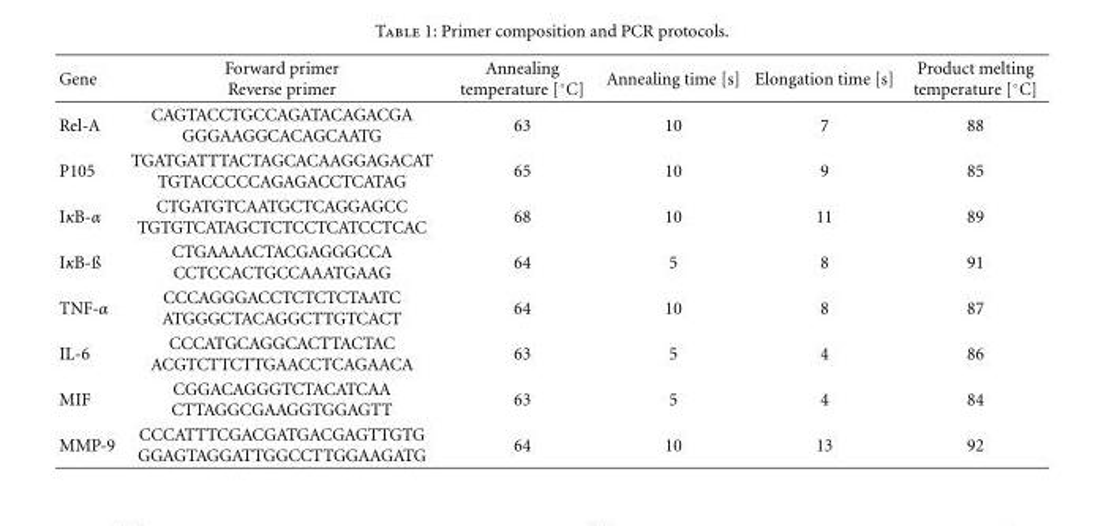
<table><thead><tr><td>Gene</td><td>Forward primer Reverse primer</td><td>Annealing temperature [◦C]</td><td>Annealing time [s]</td><td>Elongation time [s]</td><td>Product melting temperature [◦C]</td></tr></thead><tbody><tr><td>Rel-A</td><td>CAGTACCTGCCAGATACAGACGA GGGAAGGCACAGCAATG</td><td>63</td><td>10</td><td>7</td><td>88</td></tr><tr><td>P105</td><td>TGATGATTTACTAGCACAAGGAGACAT TGTACCCCCAGAGACCTCATAG</td><td>65</td><td>10</td><td>9</td><td>85</td></tr><tr><td>IκB-α</td><td>CTGATGTCAATGCTCAGGAGCC TGTGTCATAGCTCTCCTCATCCTCAC</td><td>68</td><td>10</td><td>11</td><td>89</td></tr><tr><td>IκB-ß</td><td>CTGAAAACTACGAGGGCCA CCTCCACTGCCAAATGAAG</td><td>64</td><td>5</td><td>8</td><td>91</td></tr><tr><td>TNF-α</td><td>CCCAGGGACCTCTCTCTAATC ATGGGCTACAGGCTTGTCACT</td><td>64</td><td>10</td><td>8</td><td>87</td></tr><tr><td>IL-6</td><td>CCCATGCAGGCACTTACTAC ACGTCTTCTTGAACCTCAGAACA</td><td>63</td><td>5</td><td>4</td><td>86</td></tr><tr><td>MIF</td><td>CGGACAGGGTCTACATCAA CTTAGGCGAAGGTGGAGTT</td><td>63</td><td>5</td><td>4</td><td>84</td></tr><tr><td>MMP-9</td><td>CCCATTTCGACGATGACGAGTTGTG GGAGTAGGATTGGCCTTGGAAGATG</td><td>64</td><td>10</td><td>13</td><td>92</td></tr></tbody></table>